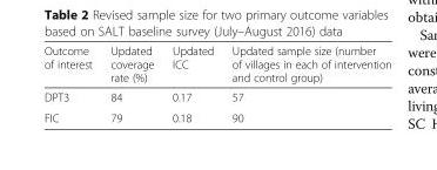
<table><thead><tr><td>Outcome of interest</td><td>Updated coverage rate (%)</td><td>Updated ICC</td><td>Updated sample size (number of villages in each of intervention and control group)</td></tr></thead><tbody><tr><td>DPT3</td><td>84</td><td>0.17</td><td>57</td></tr><tr><td>FIC</td><td>79</td><td>0.18</td><td>90</td></tr></tbody></table>